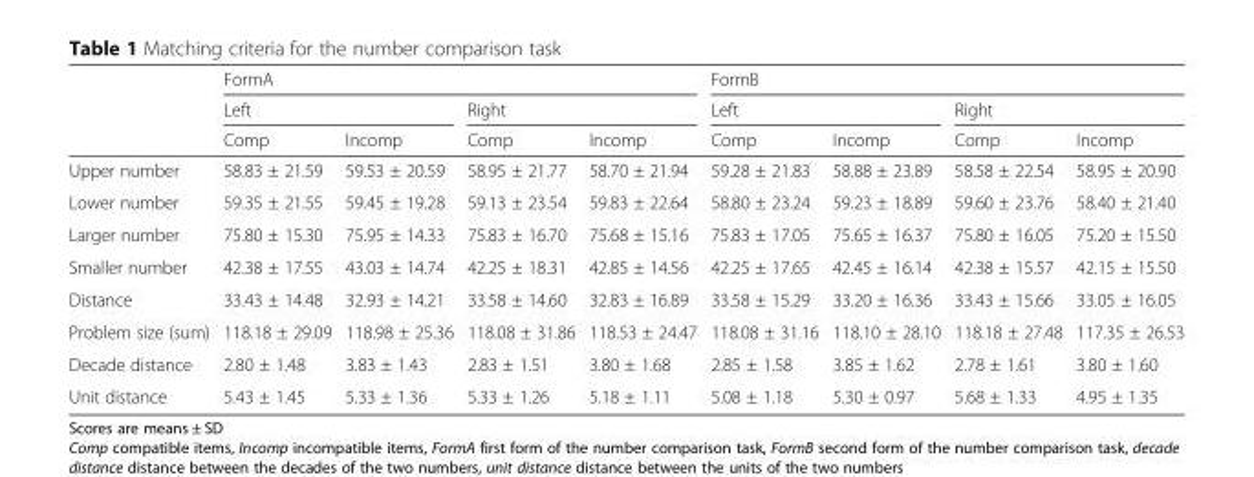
<table><thead><tr><td rowspan="3"></td><td colspan="4">FormA</td><td colspan="4">FormB</td></tr><tr><td colspan="2">Left</td><td colspan="2">Right</td><td colspan="2">Left</td><td colspan="2">Right</td></tr><tr><td>Comp</td><td>Incomp</td><td>Comp</td><td>Incomp</td><td>Comp</td><td>Incomp</td><td>Comp</td><td>Incomp</td></tr></thead><tbody><tr><td>Upper number</td><td>58.83 ± 21.59</td><td>59.53 ± 20.59</td><td>58.95 ± 21.77</td><td>58.70 ± 21.94</td><td>59.28 ± 21.83</td><td>58.88 ± 23.89</td><td>58.58 ± 22.54</td><td>58.95 ± 20.90</td></tr><tr><td>Lower number</td><td>59.35 ± 21.55</td><td>59.45 ± 19.28</td><td>59.13 ± 23.54</td><td>59.83 ± 22.64</td><td>58.80 ± 23.24</td><td>59.23 ± 18.89</td><td>59.60 ± 23.76</td><td>58.40 ± 21.40</td></tr><tr><td>Larger number</td><td>75.80 ± 15.30</td><td>75.95 ± 14.33</td><td>75.83 ± 16.70</td><td>75.68 ± 15.16</td><td>75.83 ± 17.05</td><td>75.65 ± 16.37</td><td>75.80 ± 16.05</td><td>75.20 ± 15.50</td></tr><tr><td>Smaller number</td><td>42.38 ± 17.55</td><td>43.03 ± 14.74</td><td>42.25 ± 18.31</td><td>42.85 ± 14.56</td><td>42.25 ± 17.65</td><td>42.45 ± 16.14</td><td>42.38 ± 15.57</td><td>42.15 ± 15.50</td></tr><tr><td>Distance</td><td>33.43 ± 14.48</td><td>32.93 ± 14.21</td><td>33.58 ± 14.60</td><td>32.83 ± 16.89</td><td>33.58 ± 15.29</td><td>33.20 ± 16.36</td><td>33.43 ± 15.66</td><td>33.05 ± 16.05</td></tr><tr><td>Problem size (sum)</td><td>118.18 ± 29.09</td><td>118.98 ± 25.36</td><td>118.08 ± 31.86</td><td>118.53 ± 24.47</td><td>118.08 ± 31.16</td><td>118.10 ± 28.10</td><td>118.18 ± 27.48</td><td>117.35 ± 26.53</td></tr><tr><td>Decade distance</td><td>2.80 ± 1.48</td><td>3.83 ± 1.43</td><td>2.83 ± 1.51</td><td>3.80 ± 1.68</td><td>2.85 ± 1.58</td><td>3.85 ± 1.62</td><td>2.78 ± 1.61</td><td>3.80 ± 1.60</td></tr><tr><td>Unit distance</td><td>5.43 ± 1.45</td><td>5.33 ± 1.36</td><td>5.33 ± 1.26</td><td>5.18 ± 1.11</td><td>5.08 ± 1.18</td><td>5.30 ± 0.97</td><td>5.68 ± 1.33</td><td>4.95 ± 1.35</td></tr></tbody></table>